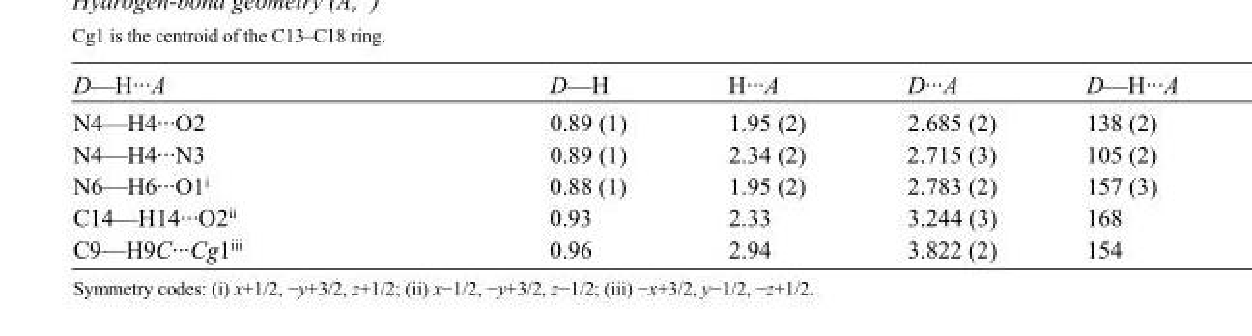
<table><tbody><tr><td>D—H···A</td><td>D—H</td><td>H···A</td><td>D···A</td><td>D—H···A</td></tr><tr><td>N4—H4···O2</td><td>0.89 (1)</td><td>1.95 (2)</td><td>2.685 (2)</td><td>138 (2)</td></tr><tr><td>N4—H4···N3</td><td>0.89 (1)</td><td>2.34 (2)</td><td>2.715 (3)</td><td>105 (2)</td></tr><tr><td>N6—H6···O1<sup>i</sup></td><td>0.88 (1)</td><td>1.95 (2)</td><td>2.783 (2)</td><td>157 (3)</td></tr><tr><td>C14—H14···O2<sup>ii</sup></td><td>0.93</td><td>2.33</td><td>3.244 (3)</td><td>168</td></tr><tr><td>C9—H9C···Cg1<sup>iii</sup></td><td>0.96</td><td>2.94</td><td>3.822 (2)</td><td>154</td></tr></tbody></table>